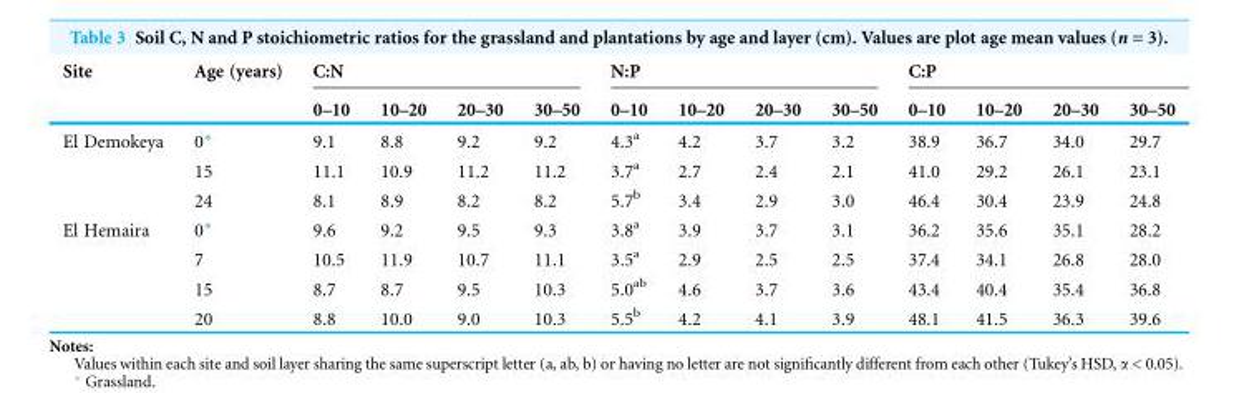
<table><thead><tr><td rowspan="2">Site</td><td rowspan="2">Age (years)</td><td colspan="4">C:N</td><td colspan="4">N:P</td><td colspan="4">C:P</td></tr><tr><td>0–10</td><td>10–20</td><td>20–30</td><td>30–50</td><td>0–10</td><td>10–20</td><td>20–30</td><td>30–50</td><td>0–10</td><td>10–20</td><td>20–30</td><td>30–50</td></tr></thead><tbody><tr><td rowspan="3">El Demokeya</td><td>0*</td><td>9.1</td><td>8.8</td><td>9.2</td><td>9.2</td><td>4.3<sup>a</sup></td><td>4.2</td><td>3.7</td><td>3.2</td><td>38.9</td><td>36.7</td><td>34.0</td><td>29.7</td></tr><tr><td>15</td><td>11.1</td><td>10.9</td><td>11.2</td><td>11.2</td><td>3.7<sup>a</sup></td><td>2.7</td><td>2.4</td><td>2.1</td><td>41.0</td><td>29.2</td><td>26.1</td><td>23.1</td></tr><tr><td>24</td><td>8.1</td><td>8.9</td><td>8.2</td><td>8.2</td><td>5.7<sup>b</sup></td><td>3.4</td><td>2.9</td><td>3.0</td><td>46.4</td><td>30.4</td><td>23.9</td><td>24.8</td></tr><tr><td rowspan="4">El Hemaira</td><td>0*</td><td>9.6</td><td>9.2</td><td>9.5</td><td>9.3</td><td>3.8<sup>a</sup></td><td>3.9</td><td>3.7</td><td>3.1</td><td>36.2</td><td>35.6</td><td>35.1</td><td>28.2</td></tr><tr><td>7</td><td>10.5</td><td>11.9</td><td>10.7</td><td>11.1</td><td>3.5<sup>a</sup></td><td>2.9</td><td>2.5</td><td>2.5</td><td>37.4</td><td>34.1</td><td>26.8</td><td>28.0</td></tr><tr><td>15</td><td>8.7</td><td>8.7</td><td>9.5</td><td>10.3</td><td>5.0<sup>ab</sup></td><td>4.6</td><td>3.7</td><td>3.6</td><td>43.4</td><td>40.4</td><td>35.4</td><td>36.8</td></tr><tr><td>20</td><td>8.8</td><td>10.0</td><td>9.0</td><td>10.3</td><td>5.5<sup>b</sup></td><td>4.2</td><td>4.1</td><td>3.9</td><td>48.1</td><td>41.5</td><td>36.3</td><td>39.6</td></tr></tbody></table>